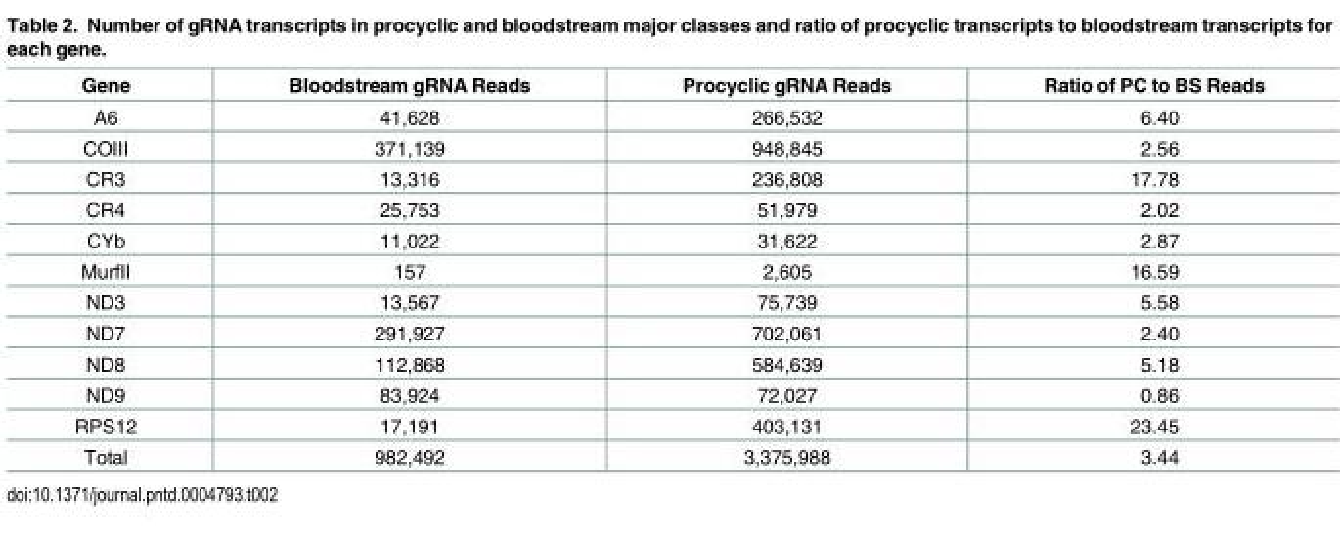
<table><thead><tr><td>Gene</td><td>Bloodstream gRNA Reads</td><td>Procyclic gRNA Reads</td><td>Ratio of PC to BS Reads</td></tr></thead><tbody><tr><td>A6</td><td>41,628</td><td>266,532</td><td>6.40</td></tr><tr><td>COIII</td><td>371,139</td><td>948,845</td><td>2.56</td></tr><tr><td>CR3</td><td>13,316</td><td>236,808</td><td>17.78</td></tr><tr><td>CR4</td><td>25,753</td><td>51,979</td><td>2.02</td></tr><tr><td>CYb</td><td>11,022</td><td>31,622</td><td>2.87</td></tr><tr><td>MurfII</td><td>157</td><td>2,605</td><td>16.59</td></tr><tr><td>ND3</td><td>13,567</td><td>75,739</td><td>5.58</td></tr><tr><td>ND7</td><td>291,927</td><td>702,061</td><td>2.40</td></tr><tr><td>ND8</td><td>112,868</td><td>584,639</td><td>5.18</td></tr><tr><td>ND9</td><td>83,924</td><td>72,027</td><td>0.86</td></tr><tr><td>RPS12</td><td>17,191</td><td>403,131</td><td>23.45</td></tr><tr><td>Total</td><td>982,492</td><td>3,375,988</td><td>3.44</td></tr></tbody></table>